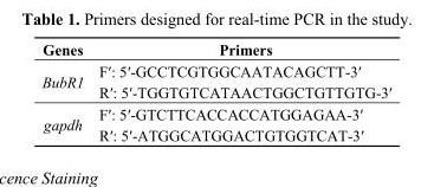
<table><thead><tr><td>Genes</td><td>Primers</td></tr></thead><tbody><tr><td rowspan="2">BubR1</td><td>Fʹ: 5ʹ-GCCTCGTGGCAATACAGCTT-3ʹ</td></tr><tr><td>Rʹ: 5ʹ-TGGTGTCATAACTGGCTGTTGTG-3ʹ</td></tr><tr><td rowspan="2">gapdh</td><td>Fʹ: 5ʹ-GTCTTCACCACCATGGAGAA-3ʹ</td></tr><tr><td>Rʹ: 5ʹ-ATGGCATGGACTGTGGTCAT-3ʹ</td></tr></tbody></table>